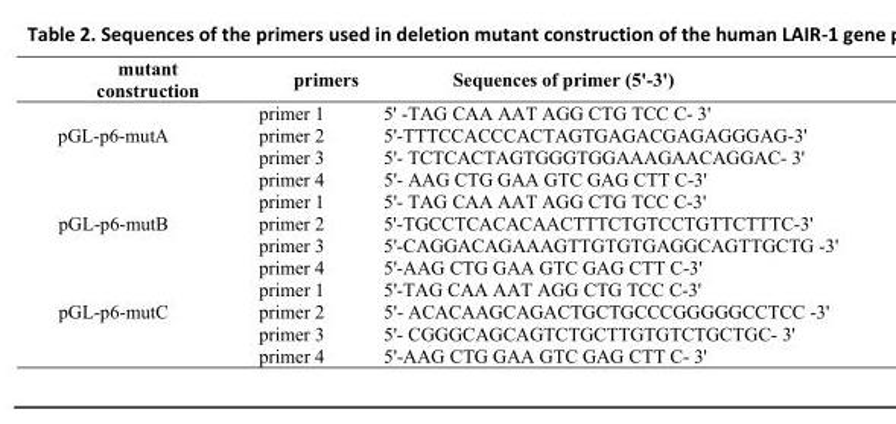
<table><tbody><tr><td>mutant construction</td><td>primers</td><td>Sequences of primer (5&#x27;-3&#x27;)</td></tr><tr><td rowspan="4">pGL-p6-mutA</td><td>primer 1</td><td>5&#x27; -TAG CAA AAT AGG CTG TCC C- 3&#x27;</td></tr><tr><td>primer 2</td><td>5&#x27;-TTTCCACCCACTAGTGAGACGAGAGGGAG-3&#x27;</td></tr><tr><td>primer 3</td><td>5&#x27;- TCTCACTAGTGGGTGGAAAGAACAGGAC- 3&#x27;</td></tr><tr><td>primer 4</td><td>5&#x27;- AAG CTG GAA GTC GAG CTT C-3&#x27;</td></tr><tr><td rowspan="4">pGL-p6-mutB</td><td>primer 1</td><td>5&#x27;- TAG CAA AAT AGG CTG TCC C-3&#x27;</td></tr><tr><td>primer 2</td><td>5&#x27;-TGCCTCACACAACTTTCTGTCCTGTTCTTTC-3&#x27;</td></tr><tr><td>primer 3</td><td>5&#x27;-CAGGACAGAAAGTTGTGTGAGGCAGTTGCTG -3&#x27;</td></tr><tr><td>primer 4</td><td>5&#x27;-AAG CTG GAA GTC GAG CTT C-3&#x27;</td></tr><tr><td rowspan="4">pGL-p6-mutC</td><td>primer 1</td><td>5&#x27;-TAG CAA AAT AGG CTG TCC C-3&#x27;</td></tr><tr><td>primer 2</td><td>5&#x27;- ACACAAGCAGACTGCTGCCCGGGGGCCTCC -3&#x27;</td></tr><tr><td>primer 3</td><td>5&#x27;- CGGGCAGCAGTCTGCTTGTGTCTGCTGC- 3&#x27;</td></tr><tr><td>primer 4</td><td>5&#x27;-AAG CTG GAA GTC GAG CTT C- 3&#x27;</td></tr></tbody></table>